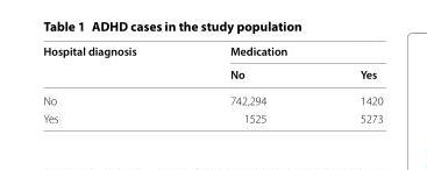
<table><thead><tr><td rowspan="2">Hospital diagnosis</td><td colspan="2">Medication</td></tr><tr><td>No</td><td>Yes</td></tr></thead><tbody><tr><td>No</td><td>742,294</td><td>1420</td></tr><tr><td>Yes</td><td>1525</td><td>5273</td></tr></tbody></table>